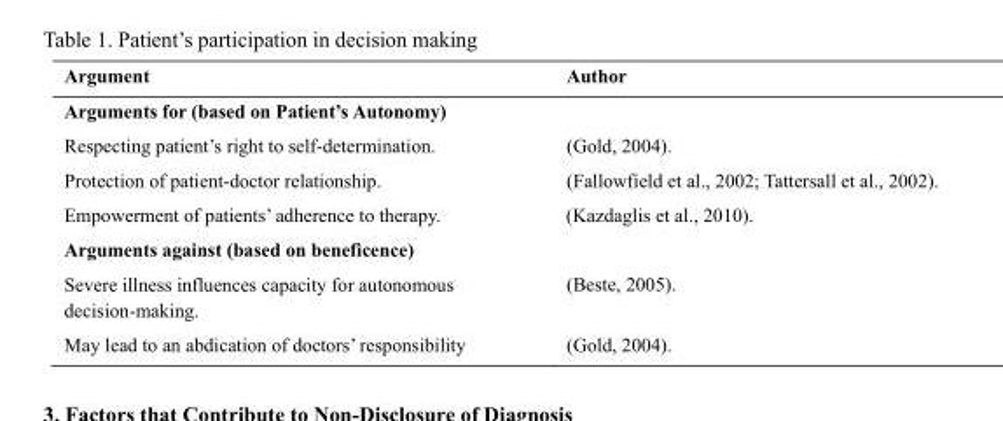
<table><thead><tr><td>Argument</td><td>Author</td></tr></thead><tbody><tr><td colspan="2">Arguments for (based on Patient’s Autonomy)</td></tr><tr><td>Respecting patient’s right to self-determination.</td><td>(Gold, 2004).</td></tr><tr><td>Protection of patient-doctor relationship.</td><td>(Fallowfield et al., 2002; Tattersall et al., 2002).</td></tr><tr><td>Empowerment of patients’ adherence to therapy.</td><td>(Kazdaglis et al., 2010).</td></tr><tr><td colspan="2">Arguments against (based on beneficence)</td></tr><tr><td>Severe illness influences capacity for autonomous decision-making.</td><td>(Beste, 2005).</td></tr><tr><td>May lead to an abdication of doctors’ responsibility</td><td>(Gold, 2004).</td></tr></tbody></table>